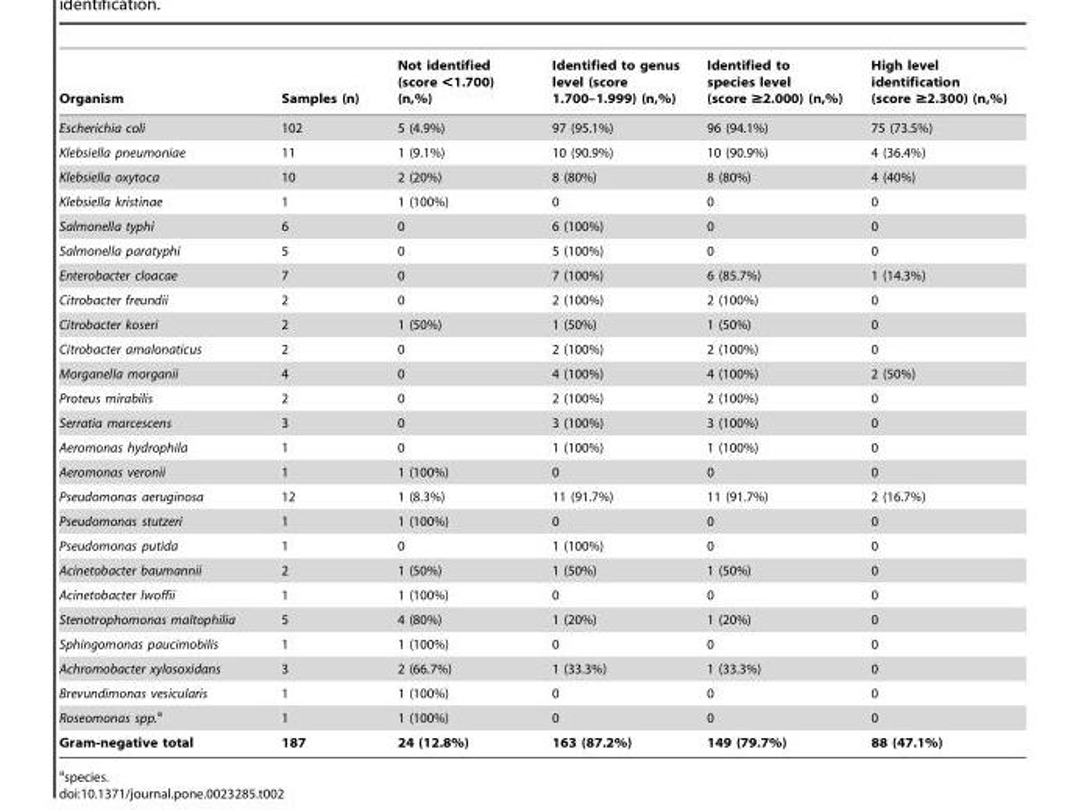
<table><thead><tr><td>Organism</td><td>Samples (n)</td><td>Not identified (score &lt;1.700) (n,%)</td><td>Identified to genus level (score 1.700–1.999) (n,%)</td><td>Identified to species level (score ≥2.000) (n,%)</td><td>High level identification (score ≥2.300) (n,%)</td></tr></thead><tbody><tr><td>Escherichia coli</td><td>102</td><td>5 (4.9%)</td><td>97 (95.1%)</td><td>96 (94.1%)</td><td>75 (73.5%)</td></tr><tr><td>Klebsiella pneumoniae</td><td>11</td><td>1 (9.1%)</td><td>10 (90.9%)</td><td>10 (90.9%)</td><td>4 (36.4%)</td></tr><tr><td>Klebsiella oxytoca</td><td>10</td><td>2 (20%)</td><td>8 (80%)</td><td>8 (80%)</td><td>4 (40%)</td></tr><tr><td>Klebsiella kristinae</td><td>1</td><td>1 (100%)</td><td>0</td><td>0</td><td>0</td></tr><tr><td>Salmonella typhi</td><td>6</td><td>0</td><td>6 (100%)</td><td>0</td><td>0</td></tr><tr><td>Salmonella paratyphi</td><td>5</td><td>0</td><td>5 (100%)</td><td>0</td><td>0</td></tr><tr><td>Enterobacter cloacae</td><td>7</td><td>0</td><td>7 (100%)</td><td>6 (85.7%)</td><td>1 (14.3%)</td></tr><tr><td>Citrobacter freundii</td><td>2</td><td>0</td><td>2 (100%)</td><td>2 (100%)</td><td>0</td></tr><tr><td>Citrobacter koseri</td><td>2</td><td>1 (50%)</td><td>1 (50%)</td><td>1 (50%)</td><td>0</td></tr><tr><td>Citrobacter amalonaticus</td><td>2</td><td>0</td><td>2 (100%)</td><td>2 (100%)</td><td>0</td></tr><tr><td>Morganella morganii</td><td>4</td><td>0</td><td>4 (100%)</td><td>4 (100%)</td><td>2 (50%)</td></tr><tr><td>Proteus mirabilis</td><td>2</td><td>0</td><td>2 (100%)</td><td>2 (100%)</td><td>0</td></tr><tr><td>Serratia marcescens</td><td>3</td><td>0</td><td>3 (100%)</td><td>3 (100%)</td><td>0</td></tr><tr><td>Aeromonas hydrophila</td><td>1</td><td>0</td><td>1 (100%)</td><td>1 (100%)</td><td>0</td></tr><tr><td>Aeromonas veronii</td><td>1</td><td>1 (100%)</td><td>0</td><td>0</td><td>0</td></tr><tr><td>Pseudomonas aeruginosa</td><td>12</td><td>1 (8.3%)</td><td>11 (91.7%)</td><td>11 (91.7%)</td><td>2 (16.7%)</td></tr><tr><td>Pseudomonas stutzeri</td><td>1</td><td>1 (100%)</td><td>0</td><td>0</td><td>0</td></tr><tr><td>Pseudomonas putida</td><td>1</td><td>0</td><td>1 (100%)</td><td>0</td><td>0</td></tr><tr><td>Acinetobacter baumannii</td><td>2</td><td>1 (50%)</td><td>1 (50%)</td><td>1 (50%)</td><td>0</td></tr><tr><td>Acinetobacter lwoffii</td><td>1</td><td>1 (100%)</td><td>0</td><td>0</td><td>0</td></tr><tr><td>Stenotrophomonas maltophilia</td><td>5</td><td>4 (80%)</td><td>1 (20%)</td><td>1 (20%)</td><td>0</td></tr><tr><td>Sphingomonas paucimobilis</td><td>1</td><td>1 (100%)</td><td>0</td><td>0</td><td>0</td></tr><tr><td>Achromobacter xylosoxidans</td><td>3</td><td>2 (66.7%)</td><td>1 (33.3%)</td><td>1 (33.3%)</td><td>0</td></tr><tr><td>Brevundimonas vesicularis</td><td>1</td><td>1 (100%)</td><td>0</td><td>0</td><td>0</td></tr><tr><td>Roseomonas spp.a</td><td>1</td><td>1 (100%)</td><td>0</td><td>0</td><td>0</td></tr><tr><td>Gram-negative total</td><td>187</td><td>24 (12.8%)</td><td>163 (87.2%)</td><td>149 (79.7%)</td><td>88 (47.1%)</td></tr></tbody></table>